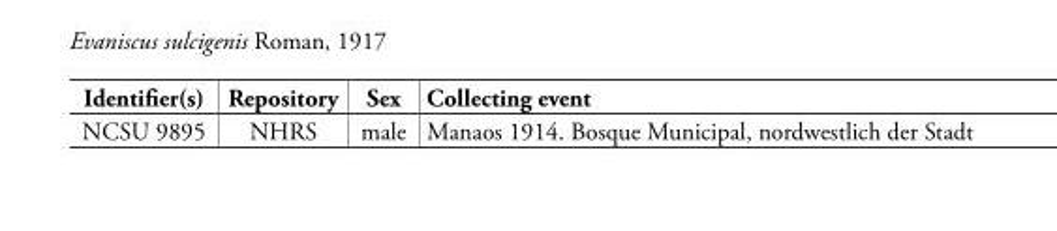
<table><thead><tr><td>Identifier(s)</td><td>Repository</td><td>Sex</td><td>Collecting event</td></tr></thead><tbody><tr><td>NCSU 9895</td><td>NHRS</td><td>male</td><td>Manaos 1914. Bosque Municipal, nordwestlich der Stadt</td></tr></tbody></table>